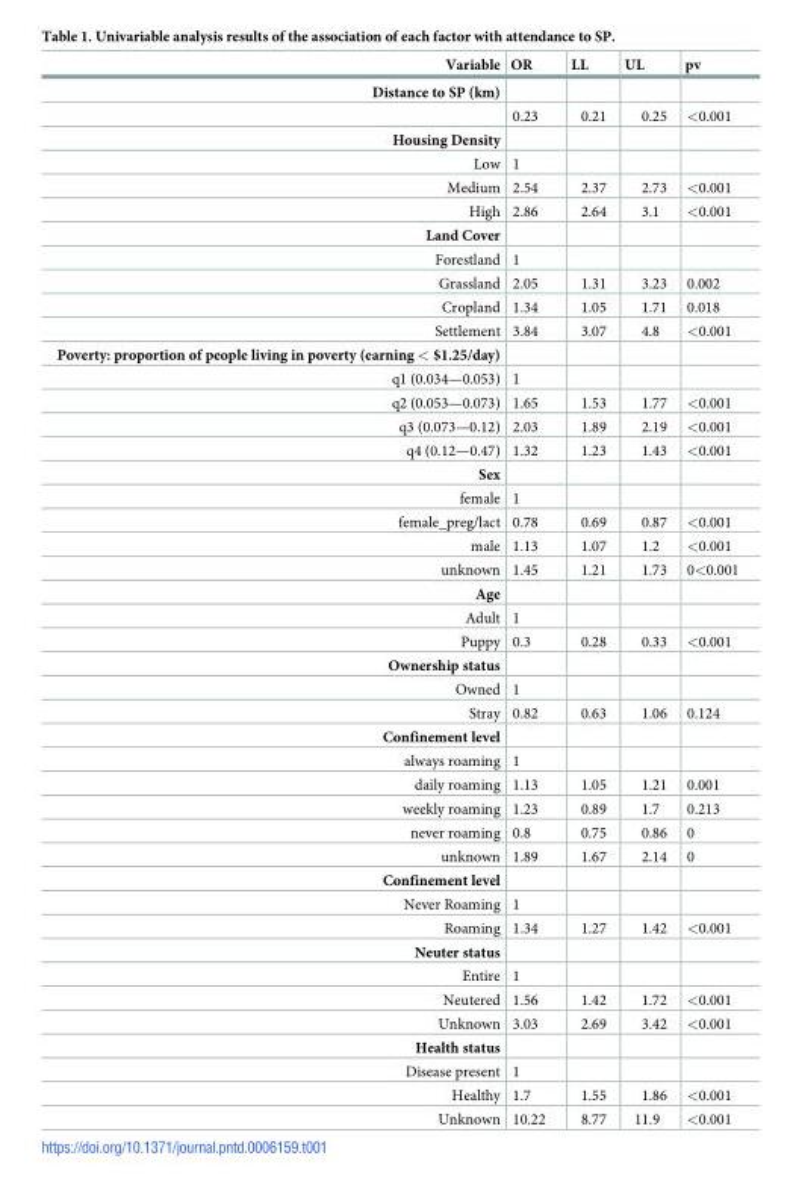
<table><thead><tr><td>Variable</td><td>OR</td><td>LL</td><td>UL</td><td>pv</td></tr></thead><tbody><tr><td colspan="5">Distance to SP (km)</td></tr><tr><td></td><td>0.23</td><td>0.21</td><td>0.25</td><td>&lt;0.001</td></tr><tr><td colspan="5">Housing Density</td></tr><tr><td>Low</td><td>1</td><td></td><td></td><td></td></tr><tr><td>Medium</td><td>2.54</td><td>2.37</td><td>2.73</td><td>&lt;0.001</td></tr><tr><td>High</td><td>2.86</td><td>2.64</td><td>3.1</td><td>&lt;0.001</td></tr><tr><td colspan="5">Land Cover</td></tr><tr><td>Forestland</td><td>1</td><td></td><td></td><td></td></tr><tr><td>Grassland</td><td>2.05</td><td>1.31</td><td>3.23</td><td>0.002</td></tr><tr><td>Cropland</td><td>1.34</td><td>1.05</td><td>1.71</td><td>0.018</td></tr><tr><td>Settlement</td><td>3.84</td><td>3.07</td><td>4.8</td><td>&lt;0.001</td></tr><tr><td colspan="5">Poverty: proportion of people living in poverty (earning &lt; $1.25/day)</td></tr><tr><td>q1 (0.034—0.053)</td><td>1</td><td></td><td></td><td></td></tr><tr><td>q2 (0.053—0.073)</td><td>1.65</td><td>1.53</td><td>1.77</td><td>&lt;0.001</td></tr><tr><td>q3 (0.073—0.12)</td><td>2.03</td><td>1.89</td><td>2.19</td><td>&lt;0.001</td></tr><tr><td>q4 (0.12—0.47)</td><td>1.32</td><td>1.23</td><td>1.43</td><td>&lt;0.001</td></tr><tr><td colspan="5">Sex</td></tr><tr><td>female</td><td>1</td><td></td><td></td><td></td></tr><tr><td>female_preg/lact</td><td>0.78</td><td>0.69</td><td>0.87</td><td>&lt;0.001</td></tr><tr><td>male</td><td>1.13</td><td>1.07</td><td>1.2</td><td>&lt;0.001</td></tr><tr><td>unknown</td><td>1.45</td><td>1.21</td><td>1.73</td><td>0&lt;0.001</td></tr><tr><td colspan="5">Age</td></tr><tr><td>Adult</td><td>1</td><td></td><td></td><td></td></tr><tr><td>Puppy</td><td>0.3</td><td>0.28</td><td>0.33</td><td>&lt;0.001</td></tr><tr><td colspan="5">Ownership status</td></tr><tr><td>Owned</td><td>1</td><td></td><td></td><td></td></tr><tr><td>Stray</td><td>0.82</td><td>0.63</td><td>1.06</td><td>0.124</td></tr><tr><td colspan="5">Confinement level</td></tr><tr><td>always roaming</td><td>1</td><td></td><td></td><td></td></tr><tr><td>daily roaming</td><td>1.13</td><td>1.05</td><td>1.21</td><td>0.001</td></tr><tr><td>weekly roaming</td><td>1.23</td><td>0.89</td><td>1.7</td><td>0.213</td></tr><tr><td>never roaming</td><td>0.8</td><td>0.75</td><td>0.86</td><td>0</td></tr><tr><td>unknown</td><td>1.89</td><td>1.67</td><td>2.14</td><td>0</td></tr><tr><td colspan="5">Confinement level</td></tr><tr><td>Never Roaming</td><td>1</td><td></td><td></td><td></td></tr><tr><td>Roaming</td><td>1.34</td><td>1.27</td><td>1.42</td><td>&lt;0.001</td></tr><tr><td colspan="5">Neuter status</td></tr><tr><td>Entire</td><td>1</td><td></td><td></td><td></td></tr><tr><td>Neutered</td><td>1.56</td><td>1.42</td><td>1.72</td><td>&lt;0.001</td></tr><tr><td>Unknown</td><td>3.03</td><td>2.69</td><td>3.42</td><td>&lt;0.001</td></tr><tr><td colspan="5">Health status</td></tr><tr><td>Disease present</td><td>1</td><td></td><td></td><td></td></tr><tr><td>Healthy</td><td>1.7</td><td>1.55</td><td>1.86</td><td>&lt;0.001</td></tr><tr><td>Unknown</td><td>10.22</td><td>8.77</td><td>11.9</td><td>&lt;0.001</td></tr></tbody></table>